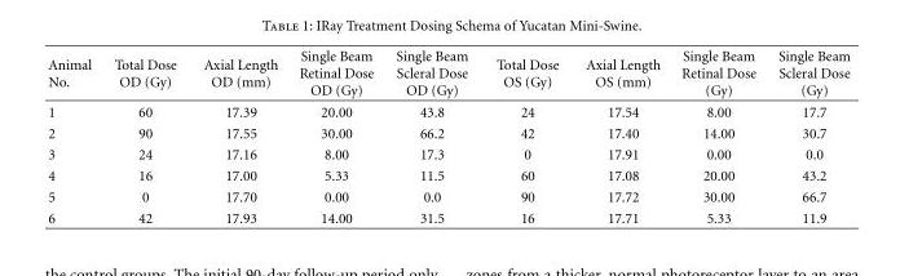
<table><thead><tr><td>Animal No.</td><td>Total Dose OD (Gy)</td><td>Axial Length OD (mm)</td><td>Single Beam Retinal Dose OD (Gy)</td><td>Single Beam Scleral Dose OD (Gy)</td><td>Total Dose OS (Gy)</td><td>Axial Length OS (mm)</td><td>Single Beam Retinal Dose (Gy)</td><td>Single Beam Scleral Dose (Gy)</td></tr></thead><tbody><tr><td>1</td><td>60</td><td>17.39</td><td>20.00</td><td>43.8</td><td>24</td><td>17.54</td><td>8.00</td><td>17.7</td></tr><tr><td>2</td><td>90</td><td>17.55</td><td>30.00</td><td>66.2</td><td>42</td><td>17.40</td><td>14.00</td><td>30.7</td></tr><tr><td>3</td><td>24</td><td>17.16</td><td>8.00</td><td>17.3</td><td>0</td><td>17.91</td><td>0.00</td><td>0.0</td></tr><tr><td>4</td><td>16</td><td>17.00</td><td>5.33</td><td>11.5</td><td>60</td><td>17.08</td><td>20.00</td><td>43.2</td></tr><tr><td>5</td><td>0</td><td>17.70</td><td>0.00</td><td>0.0</td><td>90</td><td>17.72</td><td>30.00</td><td>66.7</td></tr><tr><td>6</td><td>42</td><td>17.93</td><td>14.00</td><td>31.5</td><td>16</td><td>17.71</td><td>5.33</td><td>11.9</td></tr></tbody></table>